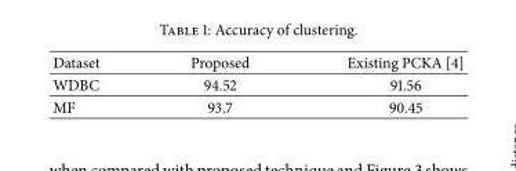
<table><tbody><tr><td>Dataset</td><td>Proposed</td><td>Existing PCKA [4]</td></tr><tr><td>WDBC</td><td>94.52</td><td>91.56</td></tr><tr><td>MF</td><td>93.7</td><td>90.45</td></tr></tbody></table>